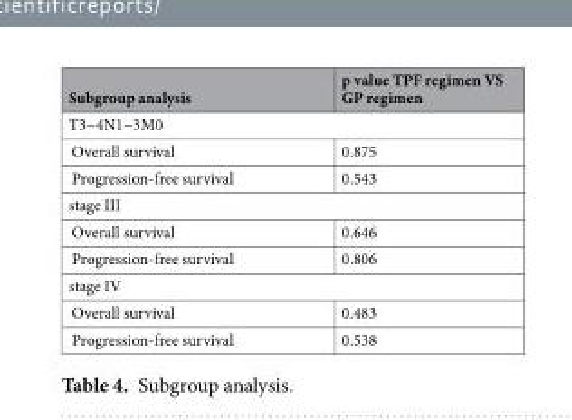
<table><thead><tr><td>Subgroup analysis</td><td>p value TPF regimen VS GP regimen</td></tr></thead><tbody><tr><td colspan="2">T3~4N1~3M0</td></tr><tr><td>Overall survival</td><td>0.875</td></tr><tr><td>Progression-free survival</td><td>0.543</td></tr><tr><td colspan="2">stage III</td></tr><tr><td>Overall survival</td><td>0.646</td></tr><tr><td>Progression-free survival</td><td>0.806</td></tr><tr><td colspan="2">stage IV</td></tr><tr><td>Overall survival</td><td>0.483</td></tr><tr><td>Progression-free survival</td><td>0.538</td></tr></tbody></table>